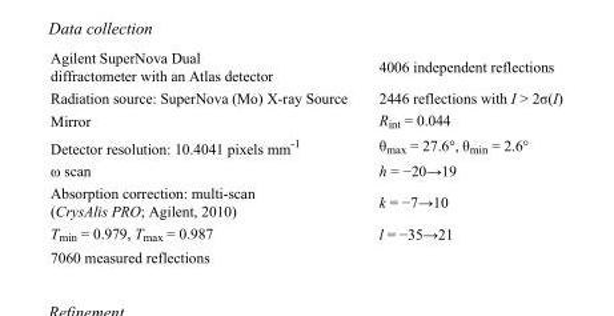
<table><tbody><tr><td>Agilent SuperNova Dual diffractometer with an Atlas detector</td><td>4006 independent reflections</td></tr><tr><td>Radiation source: SuperNova (Mo) X-ray Source</td><td>2446 reflections with I &gt; 2σ(I)</td></tr><tr><td>Mirror</td><td>R<sub>int</sub> = 0.044</td></tr><tr><td>Detector resolution: 10.4041 pixels mm<sup>-1</sup></td><td>θ<sub>max</sub> = 27.6°, θ<sub>min</sub> = 2.6°</td></tr><tr><td>ω scan</td><td>h = −20→19</td></tr><tr><td>Absorption correction: multi-scan (CrysAlis PRO; Agilent, 2010)</td><td>k = −7→10</td></tr><tr><td>T<sub>min</sub> = 0.979, T<sub>max</sub> = 0.987</td><td>l = −35→21</td></tr><tr><td>7060 measured reflections</td><td></td></tr></tbody></table>